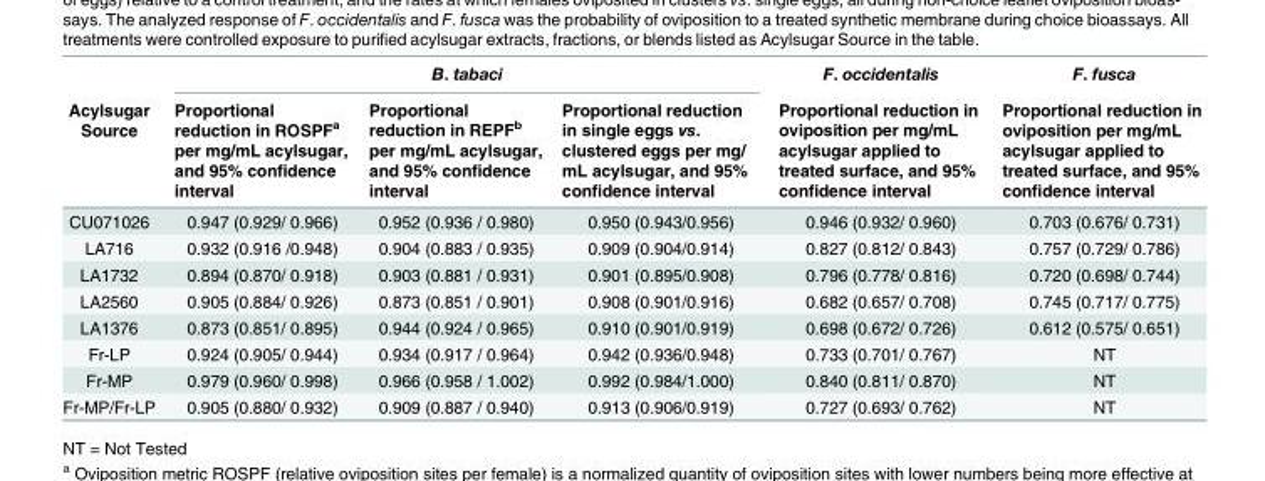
<table><thead><tr><td rowspan="2">Acylsugar Source</td><td colspan="3">B. tabaci</td><td rowspan="2">F. occidentalis Proportional reduction in oviposition per mg/mL acylsugar applied to treated surface, and 95% confidence interval</td><td rowspan="2">F. fusca Proportional reduction in oviposition per mg/mL acylsugar applied to treated surface, and 95% confidence interval</td></tr><tr><td>Proportional reduction in ROSPF<sup>a</sup> per mg/mL acylsugar, and 95% confidence interval</td><td>Proportional reduction in REPF<sup>b</sup> per mg/mL acylsugar, and 95% confidence interval</td><td>Proportional reduction in single eggs vs. clustered eggs per mg/ mL acylsugar, and 95% confidence interval</td></tr></thead><tbody><tr><td>CU071026</td><td>0.947 (0.929/ 0.966)</td><td>0.952 (0.936 / 0.980)</td><td>0.950 (0.943/0.956)</td><td>0.946 (0.932/ 0.960)</td><td>0.703 (0.676/ 0.731)</td></tr><tr><td>LA716</td><td>0.932 (0.916 /0.948)</td><td>0.904 (0.883 / 0.935)</td><td>0.909 (0.904/0.914)</td><td>0.827 (0.812/ 0.843)</td><td>0.757 (0.729/ 0.786)</td></tr><tr><td>LA1732</td><td>0.894 (0.870/ 0.918)</td><td>0.903 (0.881 / 0.931)</td><td>0.901 (0.895/0.908)</td><td>0.796 (0.778/ 0.816)</td><td>0.720 (0.698/ 0.744)</td></tr><tr><td>LA2560</td><td>0.905 (0.884/ 0.926)</td><td>0.873 (0.851 / 0.901)</td><td>0.908 (0.901/0.916)</td><td>0.682 (0.657/ 0.708)</td><td>0.745 (0.717/ 0.775)</td></tr><tr><td>LA1376</td><td>0.873 (0.851/ 0.895)</td><td>0.944 (0.924 / 0.965)</td><td>0.910 (0.901/0.919)</td><td>0.698 (0.672/ 0.726)</td><td>0.612 (0.575/ 0.651)</td></tr><tr><td>Fr-LP</td><td>0.924 (0.905/ 0.944)</td><td>0.934 (0.917 / 0.964)</td><td>0.942 (0.936/0.948)</td><td>0.733 (0.701/ 0.767)</td><td>NT</td></tr><tr><td>Fr-MP</td><td>0.979 (0.960/ 0.998)</td><td>0.966 (0.958 / 1.002)</td><td>0.992 (0.984/1.000)</td><td>0.840 (0.811/ 0.870)</td><td>NT</td></tr><tr><td>Fr-MP/Fr-LP</td><td>0.905 (0.880/ 0.932)</td><td>0.909 (0.887 / 0.940)</td><td>0.913 (0.906/0.919)</td><td>0.727 (0.693/ 0.762)</td><td>NT</td></tr></tbody></table>